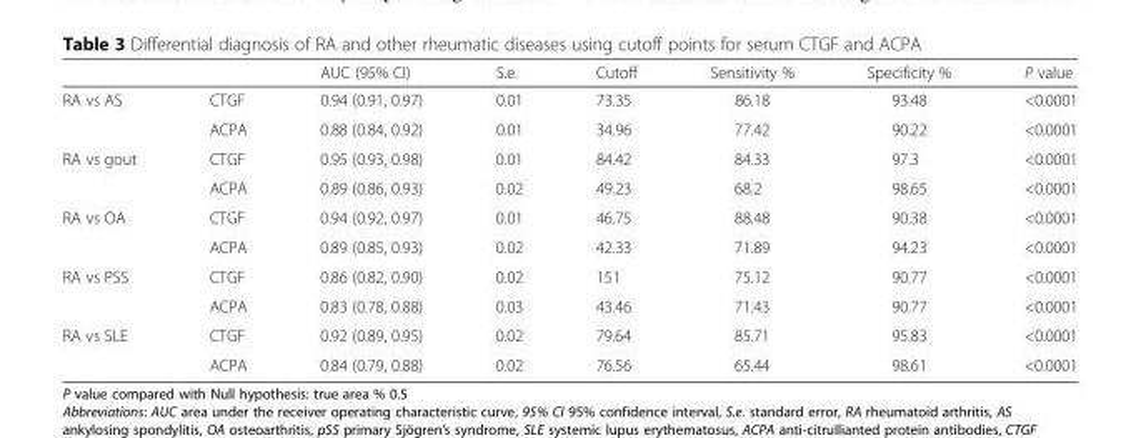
<table><thead><tr><td></td><td></td><td>AUC (95% CI)</td><td>S.e.</td><td>Cutoff</td><td>Sensitivity %</td><td>Specificity %</td><td>P value</td></tr></thead><tbody><tr><td rowspan="2">RA vs AS</td><td>CTGF</td><td>0.94 (0.91, 0.97)</td><td>0.01</td><td>73.35</td><td>86.18</td><td>93.48</td><td>&lt;0.0001</td></tr><tr><td>ACPA</td><td>0.88 (0.84, 0.92)</td><td>0.01</td><td>34.96</td><td>77.42</td><td>90.22</td><td>&lt;0.0001</td></tr><tr><td rowspan="2">RA vs gout</td><td>CTGF</td><td>0.95 (0.93, 0.98)</td><td>0.01</td><td>84.42</td><td>84.33</td><td>97.3</td><td>&lt;0.0001</td></tr><tr><td>ACPA</td><td>0.89 (0.86, 0.93)</td><td>0.02</td><td>49.23</td><td>68.2</td><td>98.65</td><td>&lt;0.0001</td></tr><tr><td rowspan="2">RA vs OA</td><td>CTGF</td><td>0.94 (0.92, 0.97)</td><td>0.01</td><td>46.75</td><td>88.48</td><td>90.38</td><td>&lt;0.0001</td></tr><tr><td>ACPA</td><td>0.89 (0.85, 0.93)</td><td>0.02</td><td>42.33</td><td>71.89</td><td>94.23</td><td>&lt;0.0001</td></tr><tr><td rowspan="2">RA vs PSS</td><td>CTGF</td><td>0.86 (0.82, 0.90)</td><td>0.02</td><td>151</td><td>75.12</td><td>90.77</td><td>&lt;0.0001</td></tr><tr><td>ACPA</td><td>0.83 (0.78, 0.88)</td><td>0.03</td><td>43.46</td><td>71.43</td><td>90.77</td><td>&lt;0.0001</td></tr><tr><td rowspan="2">RA vs SLE</td><td>CTGF</td><td>0.92 (0.89, 0.95)</td><td>0.02</td><td>79.64</td><td>85.71</td><td>95.83</td><td>&lt;0.0001</td></tr><tr><td>ACPA</td><td>0.84 (0.79, 0.88)</td><td>0.02</td><td>76.56</td><td>65.44</td><td>98.61</td><td>&lt;0.0001</td></tr></tbody></table>